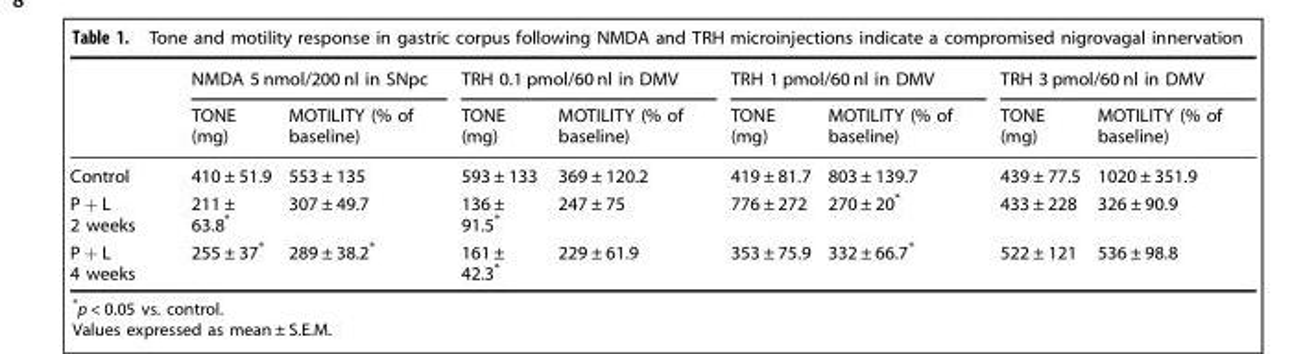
<table><thead><tr><td rowspan="2"></td><td colspan="2">NMDA 5 nmol/200 nl in SNpc</td><td colspan="2">TRH 0.1 pmol/60 nl in DMV</td><td colspan="2">TRH 1 pmol/60 nl in DMV</td><td colspan="2">TRH 3 pmol/60 nl in DMV</td></tr><tr><td>TONE (mg)</td><td>MOTILITY (% of baseline)</td><td>TONE (mg)</td><td>MOTILITY (% of baseline)</td><td>TONE (mg)</td><td>MOTILITY (% of baseline)</td><td>TONE (mg)</td><td>MOTILITY (% of baseline)</td></tr></thead><tbody><tr><td>Control</td><td>410 ± 51.9</td><td>553 ± 135</td><td>593 ± 133</td><td>369 ± 120.2</td><td>419 ± 81.7</td><td>803 ± 139.7</td><td>439 ± 77.5</td><td>1020 ± 351.9</td></tr><tr><td>P + L 2 weeks</td><td>211 ± 63.8*</td><td>307 ± 49.7</td><td>136 ± 91.5*</td><td>247 ± 75</td><td>776 ± 272</td><td>270 ± 20*</td><td>433 ± 228</td><td>326 ± 90.9</td></tr><tr><td>P + L 4 weeks</td><td>255 ± 37*</td><td>289 ± 38.2*</td><td>161 ± 42.3*</td><td>229 ± 61.9</td><td>353 ± 75.9</td><td>332 ± 66.7*</td><td>522 ± 121</td><td>536 ± 98.8</td></tr></tbody></table>